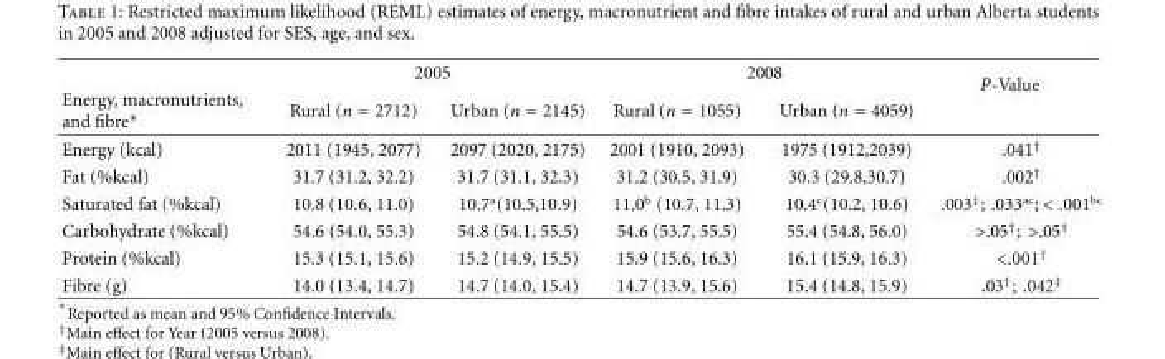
<table><thead><tr><td rowspan="2">Energy, macronutrients, and fibre∗</td><td colspan="2">2005</td><td colspan="2">2008</td><td rowspan="2">P-Value</td></tr><tr><td>Rural (n = 2712)</td><td>Urban (n = 2145)</td><td>Rural (n = 1055)</td><td>Urban (n = 4059)</td></tr></thead><tbody><tr><td>Energy (kcal)</td><td>2011 (1945, 2077)</td><td>2097 (2020, 2175)</td><td>2001 (1910, 2093)</td><td>1975 (1912,2039)</td><td>.041<sup>†</sup></td></tr><tr><td>Fat (%kcal)</td><td>31.7 (31.2, 32.2)</td><td>31.7 (31.1, 32.3)</td><td>31.2 (30.5, 31.9)</td><td>30.3 (29.8,30.7)</td><td>.002<sup>†</sup></td></tr><tr><td>Saturated fat (%kcal)</td><td>10.8 (10.6, 11.0)</td><td>10.7<sup>a</sup>(10.5,10.9)</td><td>11.0<sup>b</sup> (10.7, 11.3)</td><td>10.4<sup>c</sup>(10.2, 10.6)</td><td>.003<sup>‡</sup>; .033<sup>ac</sup>; &lt; .001<sup>bc</sup></td></tr><tr><td>Carbohydrate (%kcal)</td><td>54.6 (54.0, 55.3)</td><td>54.8 (54.1, 55.5)</td><td>54.6 (53.7, 55.5)</td><td>55.4 (54.8, 56.0)</td><td>&gt;.05<sup>†</sup>; &gt;.05<sup>‡</sup></td></tr><tr><td>Protein (%kcal)</td><td>15.3 (15.1, 15.6)</td><td>15.2 (14.9, 15.5)</td><td>15.9 (15.6, 16.3)</td><td>16.1 (15.9, 16.3)</td><td>&lt;.001<sup>†</sup></td></tr><tr><td>Fibre (g)</td><td>14.0 (13.4, 14.7)</td><td>14.7 (14.0, 15.4)</td><td>14.7 (13.9, 15.6)</td><td>15.4 (14.8, 15.9)</td><td>.03<sup>†</sup>; .042<sup>‡</sup></td></tr></tbody></table>